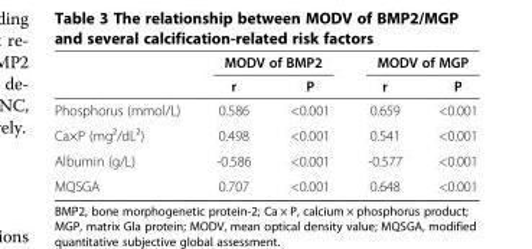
<table><thead><tr><td rowspan="2"></td><td colspan="2">MODV of BMP2</td><td colspan="2">MODV of MGP</td></tr><tr><td>r</td><td>P</td><td>r</td><td>P</td></tr></thead><tbody><tr><td>Phosphorus (mmol/L)</td><td>0.586</td><td>&lt;0.001</td><td>0.659</td><td>&lt;0.001</td></tr><tr><td>Ca×P (mg²/dL²)</td><td>0.498</td><td>&lt;0.001</td><td>0.541</td><td>&lt;0.001</td></tr><tr><td>Albumin (g/L)</td><td>-0.586</td><td>&lt;0.001</td><td>-0.577</td><td>&lt;0.001</td></tr><tr><td>MQSGA</td><td>0.707</td><td>&lt;0.001</td><td>0.648</td><td>&lt;0.001</td></tr></tbody></table>